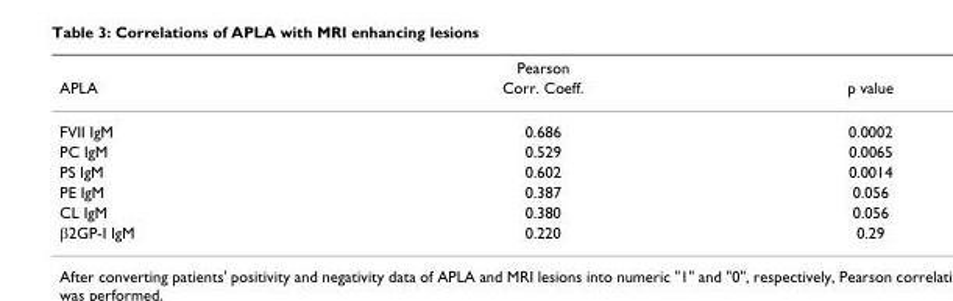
<table><thead><tr><td rowspan="2">APLA</td><td rowspan="2">Pearson Corr. Coeff.</td><td rowspan="2">p value</td></tr><tr></tr></thead><tbody><tr><td>FVII IgM</td><td>0.686</td><td>0.0002</td></tr><tr><td>PC IgM</td><td>0.529</td><td>0.0065</td></tr><tr><td>PS IgM</td><td>0.602</td><td>0.0014</td></tr><tr><td>PE IgM</td><td>0.387</td><td>0.056</td></tr><tr><td>CL IgM</td><td>0.380</td><td>0.056</td></tr><tr><td>β2GP-I IgM</td><td>0.220</td><td>0.29</td></tr></tbody></table>